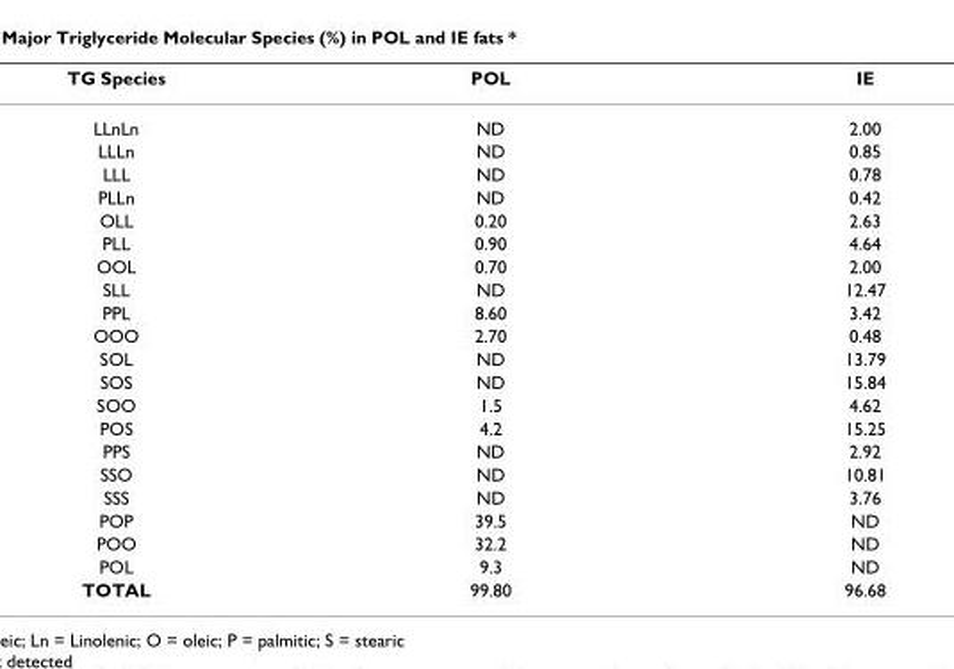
<table><thead><tr><td>TG Species</td><td>POL</td><td>IE</td></tr></thead><tbody><tr><td>LLnLn</td><td>ND</td><td>2.00</td></tr><tr><td>LLLn</td><td>ND</td><td>0.85</td></tr><tr><td>LLL</td><td>ND</td><td>0.78</td></tr><tr><td>PLLn</td><td>ND</td><td>0.42</td></tr><tr><td>OLL</td><td>0.20</td><td>2.63</td></tr><tr><td>PLL</td><td>0.90</td><td>4.64</td></tr><tr><td>OOL</td><td>0.70</td><td>2.00</td></tr><tr><td>SLL</td><td>ND</td><td>12.47</td></tr><tr><td>PPL</td><td>8.60</td><td>3.42</td></tr><tr><td>OOO</td><td>2.70</td><td>0.48</td></tr><tr><td>SOL</td><td>ND</td><td>13.79</td></tr><tr><td>SOS</td><td>ND</td><td>15.84</td></tr><tr><td>SOO</td><td>1.5</td><td>4.62</td></tr><tr><td>POS</td><td>4.2</td><td>15.25</td></tr><tr><td>PPS</td><td>ND</td><td>2.92</td></tr><tr><td>SSO</td><td>ND</td><td>10.81</td></tr><tr><td>SSS</td><td>ND</td><td>3.76</td></tr><tr><td>POP</td><td>39.5</td><td>ND</td></tr><tr><td>POO</td><td>32.2</td><td>ND</td></tr><tr><td>POL</td><td>9.3</td><td>ND</td></tr><tr><td>TOTAL</td><td>99.80</td><td>96.68</td></tr></tbody></table>